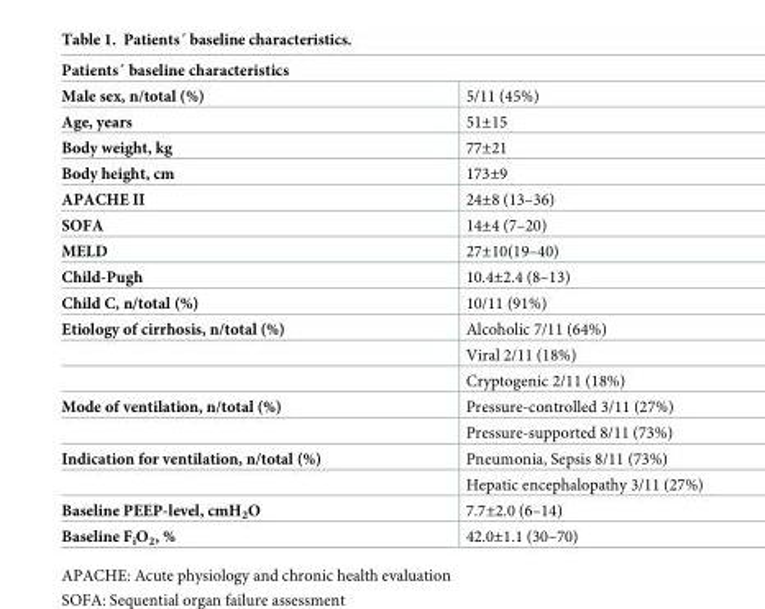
<table><thead><tr><td colspan="2">Patients´ baseline characteristics</td></tr><tr><td>Male sex, n/total (%)</td><td>5/11 (45%)</td></tr></thead><tbody><tr><td>Age, years</td><td>51±15</td></tr><tr><td>Body weight, kg</td><td>77±21</td></tr><tr><td>Body height, cm</td><td>173±9</td></tr><tr><td>APACHE II</td><td>24±8 (13–36)</td></tr><tr><td>SOFA</td><td>14±4 (7–20)</td></tr><tr><td>MELD</td><td>27±10(19–40)</td></tr><tr><td>Child-Pugh</td><td>10.4±2.4 (8–13)</td></tr><tr><td>Child C, n/total (%)</td><td>10/11 (91%)</td></tr><tr><td rowspan="3">Etiology of cirrhosis, n/total (%)</td><td>Alcoholic 7/11 (64%)</td></tr><tr><td>Viral 2/11 (18%)</td></tr><tr><td>Cryptogenic 2/11 (18%)</td></tr><tr><td rowspan="2">Mode of ventilation, n/total (%)</td><td>Pressure-controlled 3/11 (27%)</td></tr><tr><td>Pressure-supported 8/11 (73%)</td></tr><tr><td rowspan="2">Indication for ventilation, n/total (%)</td><td>Pneumonia, Sepsis 8/11 (73%)</td></tr><tr><td>Hepatic encephalopathy 3/11 (27%)</td></tr><tr><td>Baseline PEEP-level, cmH<sub>2</sub>O</td><td>7.7±2.0 (6–14)</td></tr><tr><td>Baseline F<sub>i</sub>O<sub>2</sub>, %</td><td>42.0±1.1 (30–70)</td></tr></tbody></table>